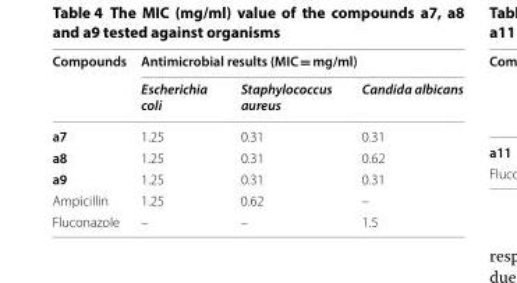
<table><thead><tr><td rowspan="2">Compounds</td><td colspan="3">Antimicrobial results (MIC = mg/ml)</td></tr><tr><td>Escherichia coli</td><td>Staphylococcus aureus</td><td>Candida albicans</td></tr></thead><tbody><tr><td>a7</td><td>1.25</td><td>0.31</td><td>0.31</td></tr><tr><td>a8</td><td>1.25</td><td>0.31</td><td>0.62</td></tr><tr><td>a9</td><td>1.25</td><td>0.31</td><td>0.31</td></tr><tr><td>Ampicillin</td><td>1.25</td><td>0.62</td><td>–</td></tr><tr><td>Fluconazole</td><td>–</td><td>–</td><td>1.5</td></tr></tbody></table>